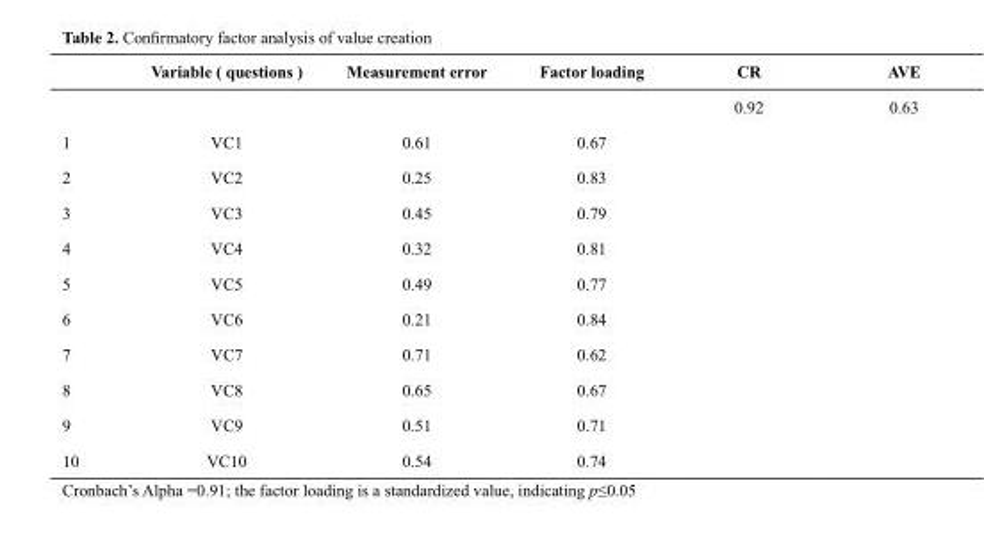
<table><thead><tr><td></td><td>Variable ( questions )</td><td>Measurement error</td><td>Factor loading</td><td>CR</td><td>AVE</td></tr></thead><tbody><tr><td colspan="4"></td><td>0.92</td><td>0.63</td></tr><tr><td>1</td><td>VC1</td><td>0.61</td><td>0.67</td><td rowspan="10" colspan="2"></td></tr><tr><td>2</td><td>VC2</td><td>0.25</td><td>0.83</td></tr><tr><td>3</td><td>VC3</td><td>0.45</td><td>0.79</td></tr><tr><td>4</td><td>VC4</td><td>0.32</td><td>0.81</td></tr><tr><td>5</td><td>VC5</td><td>0.49</td><td>0.77</td></tr><tr><td>6</td><td>VC6</td><td>0.21</td><td>0.84</td></tr><tr><td>7</td><td>VC7</td><td>0.71</td><td>0.62</td></tr><tr><td>8</td><td>VC8</td><td>0.65</td><td>0.67</td></tr><tr><td>9</td><td>VC9</td><td>0.51</td><td>0.71</td></tr><tr><td>10</td><td>VC10</td><td>0.54</td><td>0.74</td></tr></tbody></table>